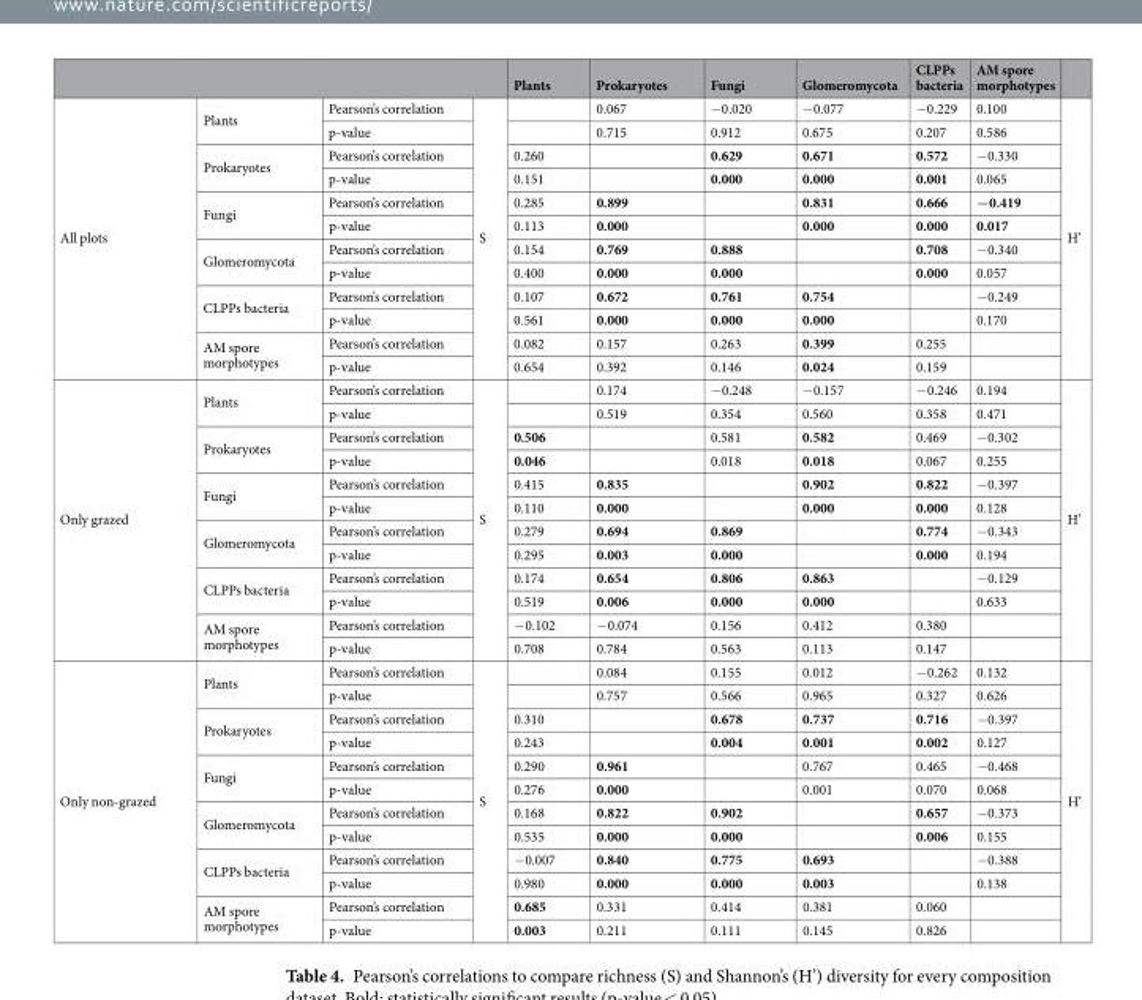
<table><thead><tr><td></td><td></td><td></td><td></td><td>Plants</td><td>Prokaryotes</td><td>Fungi</td><td>Glomeromycota</td><td>CLPPs bacteria</td><td>AM spore morphotypes</td><td></td></tr></thead><tbody><tr><td rowspan="12">All plots</td><td rowspan="2">Plants</td><td>Pearson’s correlation</td><td rowspan="12">S</td><td></td><td>0.067</td><td>−0.020</td><td>−0.077</td><td>−0.229</td><td>0.100</td><td rowspan="12">H’</td></tr><tr><td>p-value</td><td></td><td>0.715</td><td>0.912</td><td>0.675</td><td>0.207</td><td>0.586</td></tr><tr><td rowspan="2">Prokaryotes</td><td>Pearson’s correlation</td><td>0.260</td><td></td><td>0.629</td><td>0.671</td><td>0.572</td><td>−0.330</td></tr><tr><td>p-value</td><td>0.151</td><td></td><td>0.000</td><td>0.000</td><td>0.001</td><td>0.065</td></tr><tr><td rowspan="2">Fungi</td><td>Pearson’s correlation</td><td>0.285</td><td>0.899</td><td></td><td>0.831</td><td>0.666</td><td>−0.419</td></tr><tr><td>p-value</td><td>0.113</td><td>0.000</td><td></td><td>0.000</td><td>0.000</td><td>0.017</td></tr><tr><td rowspan="2">Glomeromycota</td><td>Pearson’s correlation</td><td>0.154</td><td>0.769</td><td>0.888</td><td></td><td>0.708</td><td>−0.340</td></tr><tr><td>p-value</td><td>0.400</td><td>0.000</td><td>0.000</td><td></td><td>0.000</td><td>0.057</td></tr><tr><td rowspan="2">CLPPs bacteria</td><td>Pearson’s correlation</td><td>0.107</td><td>0.672</td><td>0.761</td><td>0.754</td><td></td><td>−0.249</td></tr><tr><td>p-value</td><td>0.561</td><td>0.000</td><td>0.000</td><td>0.000</td><td></td><td>0.170</td></tr><tr><td rowspan="2">AM spore morphotypes</td><td>Pearson’s correlation</td><td>0.082</td><td>0.157</td><td>0.263</td><td>0.399</td><td>0.255</td><td></td></tr><tr><td>p-value</td><td>0.654</td><td>0.392</td><td>0.146</td><td>0.024</td><td>0.159</td><td></td></tr><tr><td rowspan="12">Only grazed</td><td rowspan="2">Plants</td><td>Pearson’s correlation</td><td rowspan="12">S</td><td></td><td>0.174</td><td>−0.248</td><td>−0.157</td><td>−0.246</td><td>0.194</td><td rowspan="12">H’</td></tr><tr><td>p-value</td><td></td><td>0.519</td><td>0.354</td><td>0.560</td><td>0.358</td><td>0.471</td></tr><tr><td rowspan="2">Prokaryotes</td><td>Pearson’s correlation</td><td>0.506</td><td></td><td>0.581</td><td>0.582</td><td>0.469</td><td>−0.302</td></tr><tr><td>p-value</td><td>0.046</td><td></td><td>0.018</td><td>0.018</td><td>0.067</td><td>0.255</td></tr><tr><td rowspan="2">Fungi</td><td>Pearson’s correlation</td><td>0.415</td><td>0.835</td><td></td><td>0.902</td><td>0.822</td><td>−0.397</td></tr><tr><td>p-value</td><td>0.110</td><td>0.000</td><td></td><td>0.000</td><td>0.000</td><td>0.128</td></tr><tr><td rowspan="2">Glomeromycota</td><td>Pearson’s correlation</td><td>0.279</td><td>0.694</td><td>0.869</td><td></td><td>0.774</td><td>−0.343</td></tr><tr><td>p-value</td><td>0.295</td><td>0.003</td><td>0.000</td><td></td><td>0.000</td><td>0.194</td></tr><tr><td rowspan="2">CLPPs bacteria</td><td>Pearson’s correlation</td><td>0.174</td><td>0.654</td><td>0.806</td><td>0.863</td><td></td><td>−0.129</td></tr><tr><td>p-value</td><td>0.519</td><td>0.006</td><td>0.000</td><td>0.000</td><td></td><td>0.633</td></tr><tr><td rowspan="2">AM spore morphotypes</td><td>Pearson’s correlation</td><td>−0.102</td><td>−0.074</td><td>0.156</td><td>0.412</td><td>0.380</td><td></td></tr><tr><td>p-value</td><td>0.708</td><td>0.784</td><td>0.563</td><td>0.113</td><td>0.147</td><td></td></tr><tr><td rowspan="12">Only non-grazed</td><td rowspan="2">Plants</td><td>Pearson’s correlation</td><td rowspan="12">S</td><td></td><td>0.084</td><td>0.155</td><td>0.012</td><td>−0.262</td><td>0.132</td><td rowspan="12">H’</td></tr><tr><td>p-value</td><td></td><td>0.757</td><td>0.566</td><td>0.965</td><td>0.327</td><td>0.626</td></tr><tr><td rowspan="2">Prokaryotes</td><td>Pearson’s correlation</td><td>0.310</td><td></td><td>0.678</td><td>0.737</td><td>0.716</td><td>−0.397</td></tr><tr><td>p-value</td><td>0.243</td><td></td><td>0.004</td><td>0.001</td><td>0.002</td><td>0.127</td></tr><tr><td rowspan="2">Fungi</td><td>Pearson’s correlation</td><td>0.290</td><td>0.961</td><td></td><td>0.767</td><td>0.465</td><td>−0.468</td></tr><tr><td>p-value</td><td>0.276</td><td>0.000</td><td></td><td>0.001</td><td>0.070</td><td>0.068</td></tr><tr><td rowspan="2">Glomeromycota</td><td>Pearson’s correlation</td><td>0.168</td><td>0.822</td><td>0.902</td><td></td><td>0.657</td><td>−0.373</td></tr><tr><td>p-value</td><td>0.535</td><td>0.000</td><td>0.000</td><td></td><td>0.006</td><td>0.155</td></tr><tr><td rowspan="2">CLPPs bacteria</td><td>Pearson’s correlation</td><td>−0.007</td><td>0.840</td><td>0.775</td><td>0.693</td><td></td><td>−0.388</td></tr><tr><td>p-value</td><td>0.980</td><td>0.000</td><td>0.000</td><td>0.003</td><td></td><td>0.138</td></tr><tr><td rowspan="2">AM spore morphotypes</td><td>Pearson’s correlation</td><td>0.685</td><td>0.331</td><td>0.414</td><td>0.381</td><td>0.060</td><td></td></tr><tr><td>p-value</td><td>0.003</td><td>0.211</td><td>0.111</td><td>0.145</td><td>0.826</td><td></td></tr></tbody></table>